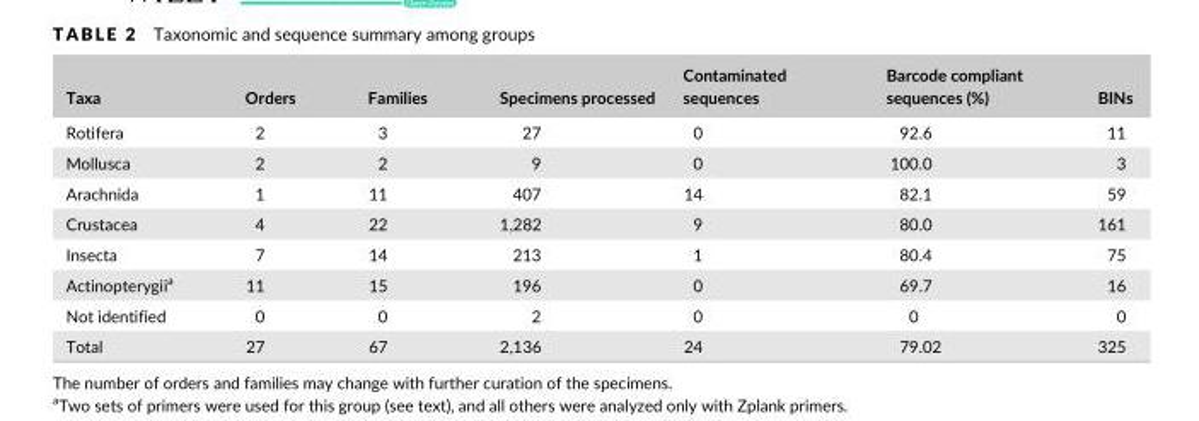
<table><thead><tr><td>Taxa</td><td>Orders</td><td>Families</td><td>Specimens processed</td><td>Contaminated sequences</td><td>Barcode compliant sequences (%)</td><td>BINs</td></tr></thead><tbody><tr><td>Rotifera</td><td>2</td><td>3</td><td>27</td><td>0</td><td>92.6</td><td>11</td></tr><tr><td>Mollusca</td><td>2</td><td>2</td><td>9</td><td>0</td><td>100.0</td><td>3</td></tr><tr><td>Arachnida</td><td>1</td><td>11</td><td>407</td><td>14</td><td>82.1</td><td>59</td></tr><tr><td>Crustacea</td><td>4</td><td>22</td><td>1,282</td><td>9</td><td>80.0</td><td>161</td></tr><tr><td>Insecta</td><td>7</td><td>14</td><td>213</td><td>1</td><td>80.4</td><td>75</td></tr><tr><td>Actinopterygii<sup>a</sup></td><td>11</td><td>15</td><td>196</td><td>0</td><td>69.7</td><td>16</td></tr><tr><td>Not identified</td><td>0</td><td>0</td><td>2</td><td>0</td><td>0</td><td>0</td></tr><tr><td>Total</td><td>27</td><td>67</td><td>2,136</td><td>24</td><td>79.02</td><td>325</td></tr></tbody></table>